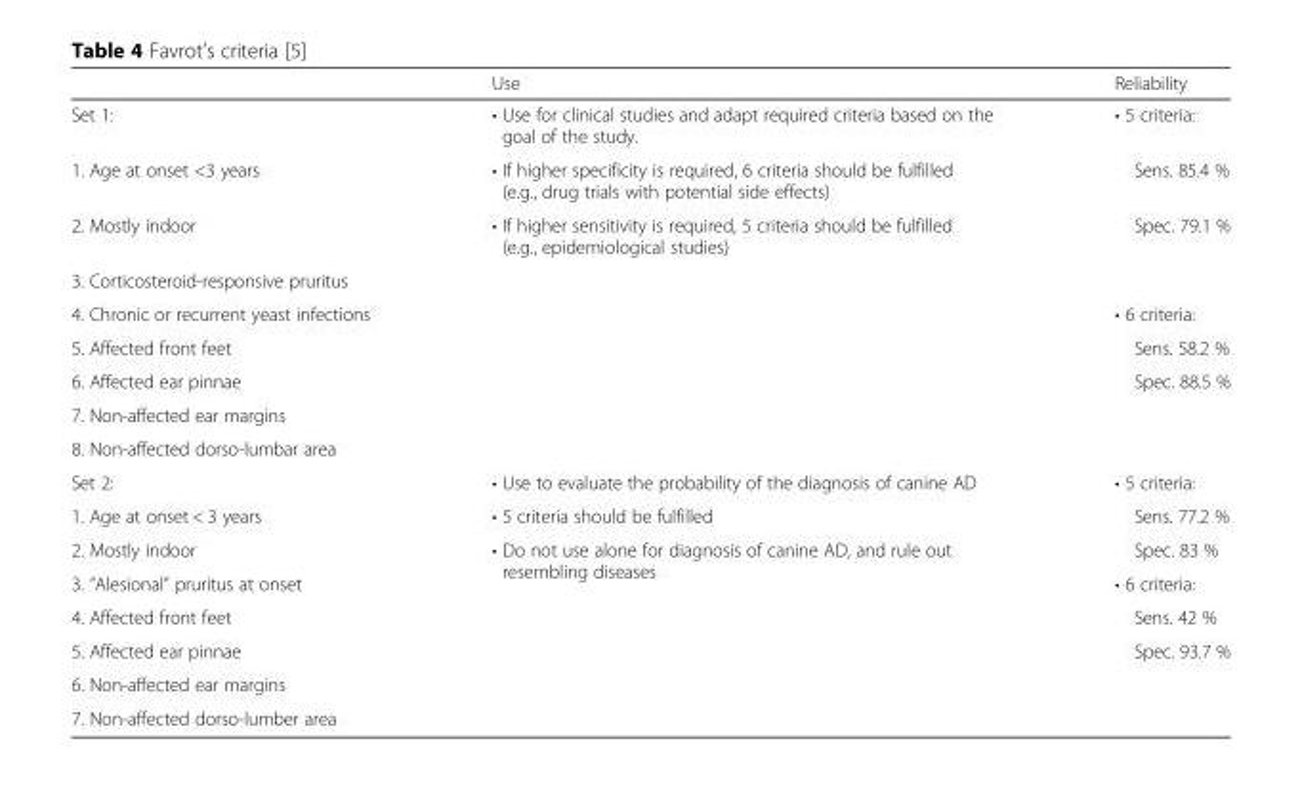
<table><thead><tr><td></td><td>Use</td><td>Reliability</td></tr></thead><tbody><tr><td>Set 1:</td><td>• Use for clinical studies and adapt required criteria based on the goal of the study.</td><td>• 5 criteria:</td></tr><tr><td>1. Age at onset &lt;3 years</td><td>• If higher specificity is required, 6 criteria should be fulfilled (e.g., drug trials with potential side effects)</td><td>Sens. 85.4 %</td></tr><tr><td>2. Mostly indoor</td><td>• If higher sensitivity is required, 5 criteria should be fulfilled (e.g., epidemiological studies)</td><td>Spec. 79.1 %</td></tr><tr><td colspan="3">3. Corticosteroid-responsive pruritus</td></tr><tr><td>4. Chronic or recurrent yeast infections</td><td></td><td>• 6 criteria:</td></tr><tr><td>5. Affected front feet</td><td rowspan="4"></td><td>Sens. 58.2 %</td></tr><tr><td>6. Affected ear pinnae</td><td rowspan="3">Spec. 88.5 %</td></tr><tr><td>7. Non-affected ear margins</td></tr><tr><td>8. Non-affected dorso-lumbar area</td></tr><tr><td>Set 2:</td><td>• Use to evaluate the probability of the diagnosis of canine AD</td><td>• 5 criteria:</td></tr><tr><td>1. Age at onset &lt; 3 years</td><td>• 5 criteria should be fulfilled</td><td>Sens. 77.2 %</td></tr><tr><td>2. Mostly indoor</td><td rowspan="6">• Do not use alone for diagnosis of canine AD, and rule out resembling diseases</td><td>Spec. 83 %</td></tr><tr><td>3. “Alesional” pruritus at onset</td><td>• 6 criteria:</td></tr><tr><td>4. Affected front feet</td><td>Sens. 42 %</td></tr><tr><td>5. Affected ear pinnae</td><td rowspan="3">Spec. 93.7 %</td></tr><tr><td>6. Non-affected ear margins</td></tr><tr><td>7. Non-affected dorso-lumber area</td></tr></tbody></table>